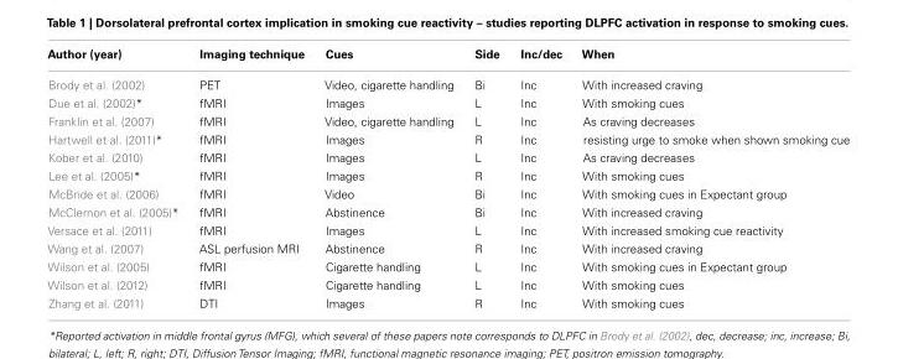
<table><thead><tr><td>Author (year)</td><td>Imaging technique</td><td>Cues</td><td>Side</td><td>Inc/dec</td><td>When</td></tr></thead><tbody><tr><td>Brody et al. (2002)</td><td>PET</td><td>Video, cigarette handling</td><td>Bi</td><td>Inc</td><td>With increased craving</td></tr><tr><td>Due et al. (2002)*</td><td>fMRI</td><td>Images</td><td>L</td><td>Inc</td><td>With smoking cues</td></tr><tr><td>Franklin et al. (2007)</td><td>fMRI</td><td>Video, cigarette handling</td><td>L</td><td>Inc</td><td>As craving decreases</td></tr><tr><td>Hartwell et al. (2011)*</td><td>fMRI</td><td>Images</td><td>R</td><td>Inc</td><td>resisting urge to smoke when shown smoking cue</td></tr><tr><td>Kober et al. (2010)</td><td>fMRI</td><td>Images</td><td>L</td><td>Inc</td><td>As craving decreases</td></tr><tr><td>Lee et al. (2005)*</td><td>fMRI</td><td>Images</td><td>R</td><td>Inc</td><td>With smoking cues</td></tr><tr><td>McBride et al. (2006)</td><td>fMRI</td><td>Video</td><td>Bi</td><td>Inc</td><td>With smoking cues in Expectant group</td></tr><tr><td>McClernon et al. (2005)*</td><td>fMRI</td><td>Abstinence</td><td>Bi</td><td>Inc</td><td>With increased craving</td></tr><tr><td>Versace et al. (2011)</td><td>fMRI</td><td>Images</td><td>L</td><td>Inc</td><td>With increased smoking cue reactivity</td></tr><tr><td>Wang et al. (2007)</td><td>ASL perfusion MRI</td><td>Abstinence</td><td>R</td><td>Inc</td><td>With increased craving</td></tr><tr><td>Wilson et al. (2005)</td><td>fMRI</td><td>Cigarette handling</td><td>L</td><td>Inc</td><td>With smoking cues in Expectant group</td></tr><tr><td>Wilson et al. (2012)</td><td>fMRI</td><td>Cigarette handling</td><td>L</td><td>Inc</td><td>With smoking cues</td></tr><tr><td>Zhang et al. (2011)</td><td>DTI</td><td>Images</td><td>R</td><td>Inc</td><td>With smoking cues</td></tr></tbody></table>